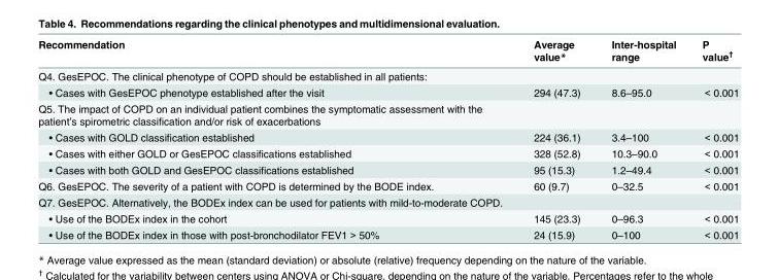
<table><thead><tr><td>Recommendation</td><td>Average value*</td><td>Inter-hospital range</td><td>P value<sup>†</sup></td></tr></thead><tbody><tr><td colspan="4">Q4. GesEPOC. The clinical phenotype of COPD should be established in all patients:</td></tr><tr><td>• Cases with GesEPOC phenotype established after the visit</td><td>294 (47.3)</td><td>8.6–95.0</td><td>&lt; 0.001</td></tr><tr><td colspan="4">Q5. The impact of COPD on an individual patient combines the symptomatic assessment with the patient’s spirometric classification and/or risk of exacerbations</td></tr><tr><td>• Cases with GOLD classification established</td><td>224 (36.1)</td><td>3.4–100</td><td>&lt; 0.001</td></tr><tr><td>• Cases with either GOLD or GesEPOC classifications established</td><td>328 (52.8)</td><td>10.3–90.0</td><td>&lt; 0.001</td></tr><tr><td>• Cases with both GOLD and GesEPOC classifications established</td><td>95 (15.3)</td><td>1.2–49.4</td><td>&lt; 0.001</td></tr><tr><td>Q6. GesEPOC. The severity of a patient with COPD is determined by the BODE index.</td><td>60 (9.7)</td><td>0–32.5</td><td>&lt; 0.001</td></tr><tr><td colspan="4">Q7. GesEPOC. Alternatively, the BODEx index can be used for patients with mild-to-moderate COPD.</td></tr><tr><td>• Use of the BODEx index in the cohort</td><td>145 (23.3)</td><td>0–96.3</td><td>&lt; 0.001</td></tr><tr><td>• Use of the BODEx index in those with post-bronchodilator FEV1 &gt; 50%</td><td>24 (15.9)</td><td>0–100</td><td>&lt; 0.001</td></tr></tbody></table>